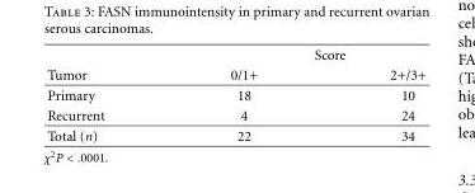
<table><thead><tr><td rowspan="2">Tumor</td><td colspan="2">Score</td></tr><tr><td>0/1+</td><td>2+/3+</td></tr></thead><tbody><tr><td>Primary</td><td>18</td><td>10</td></tr><tr><td>Recurrent</td><td>4</td><td>24</td></tr><tr><td>Total (n)</td><td>22</td><td>34</td></tr></tbody></table>